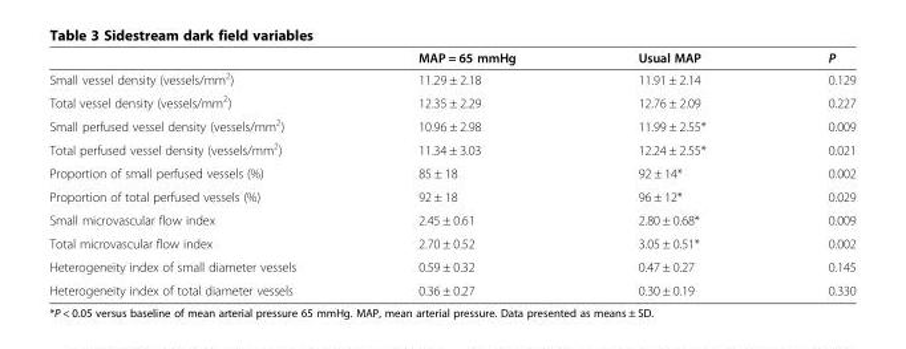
<table><thead><tr><td></td><td>MAP = 65 mmHg</td><td>Usual MAP</td><td>P</td></tr></thead><tbody><tr><td>Small vessel density (vessels/mm<sup>2</sup>)</td><td>11.29 ± 2.18</td><td>11.91 ± 2.14</td><td>0.129</td></tr><tr><td>Total vessel density (vessels/mm<sup>2</sup>)</td><td>12.35 ± 2.29</td><td>12.76 ± 2.09</td><td>0.227</td></tr><tr><td>Small perfused vessel density (vessels/mm<sup>2</sup>)</td><td>10.96 ± 2.98</td><td>11.99 ± 2.55*</td><td>0.009</td></tr><tr><td>Total perfused vessel density (vessels/mm<sup>2</sup>)</td><td>11.34 ± 3.03</td><td>12.24 ± 2.55*</td><td>0.021</td></tr><tr><td>Proportion of small perfused vessels (%)</td><td>85 ± 18</td><td>92 ± 14*</td><td>0.002</td></tr><tr><td>Proportion of total perfused vessels (%)</td><td>92 ± 18</td><td>96 ± 12*</td><td>0.029</td></tr><tr><td>Small microvascular flow index</td><td>2.45 ± 0.61</td><td>2.80 ± 0.68*</td><td>0.009</td></tr><tr><td>Total microvascular flow index</td><td>2.70 ± 0.52</td><td>3.05 ± 0.51*</td><td>0.002</td></tr><tr><td>Heterogeneity index of small diameter vessels</td><td>0.59 ± 0.32</td><td>0.47 ± 0.27</td><td>0.145</td></tr><tr><td>Heterogeneity index of total diameter vessels</td><td>0.36 ± 0.27</td><td>0.30 ± 0.19</td><td>0.330</td></tr></tbody></table>